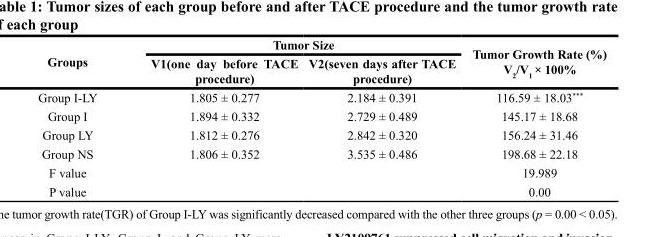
<table><thead><tr><td rowspan="2">Groups</td><td colspan="2">Tumor Size</td><td rowspan="2">Tumor Growth Rate (%) V<sub>2</sub>/V<sub>1</sub> × 100%</td></tr><tr><td>V1(one day before TACE procedure)</td><td>V2(seven days after TACE procedure)</td></tr></thead><tbody><tr><td>Group I-LY</td><td>1.805 ± 0.277</td><td>2.184 ± 0.391</td><td>116.59 ± 18.03***</td></tr><tr><td>Group I</td><td>1.894 ± 0.332</td><td>2.729 ± 0.489</td><td>145.17 ± 18.68</td></tr><tr><td>Group LY</td><td>1.812 ± 0.276</td><td>2.842 ± 0.320</td><td>156.24 ± 31.46</td></tr><tr><td>Group NS</td><td>1.806 ± 0.352</td><td>3.535 ± 0.486</td><td>198.68 ± 22.18</td></tr><tr><td>F value</td><td></td><td></td><td>19.989</td></tr><tr><td>P value</td><td></td><td></td><td>0.00</td></tr></tbody></table>